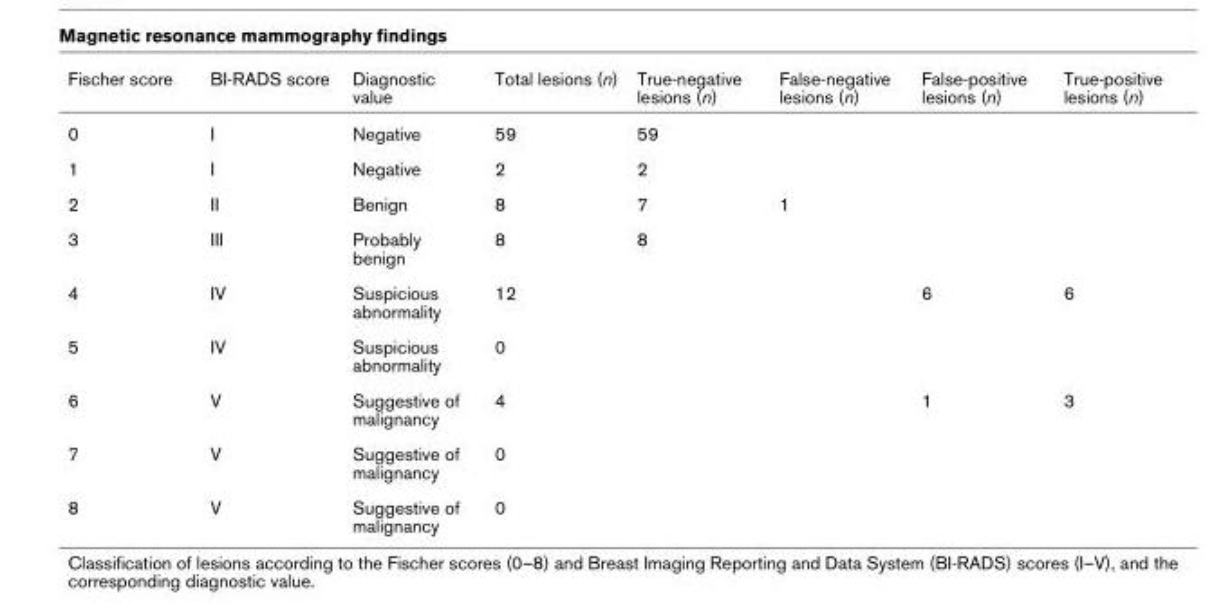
<table><thead><tr><td>Fischer score</td><td>BI-RADS score</td><td>Diagnostic value</td><td>Total lesions (n)</td><td>True-negative lesions (n)</td><td>False-negative lesions (n)</td><td>False-positive lesions (n)</td><td>True-positive lesions (n)</td></tr></thead><tbody><tr><td>0</td><td>I</td><td>Negative</td><td>59</td><td>59</td><td></td><td></td><td></td></tr><tr><td>1</td><td>I</td><td>Negative</td><td>2</td><td>2</td><td></td><td></td><td></td></tr><tr><td>2</td><td>II</td><td>Benign</td><td>8</td><td>7</td><td>1</td><td></td><td></td></tr><tr><td>3</td><td>III</td><td>Probably benign</td><td>8</td><td>8</td><td></td><td></td><td></td></tr><tr><td>4</td><td>IV</td><td>Suspicious abnormality</td><td>12</td><td></td><td></td><td>6</td><td>6</td></tr><tr><td>5</td><td>IV</td><td>Suspicious abnormality</td><td>0</td><td></td><td></td><td></td><td></td></tr><tr><td>6</td><td>V</td><td>Suggestive of malignancy</td><td>4</td><td></td><td></td><td>1</td><td>3</td></tr><tr><td>7</td><td>V</td><td>Suggestive of malignancy</td><td>0</td><td></td><td></td><td></td><td></td></tr><tr><td>8</td><td>V</td><td>Suggestive of malignancy</td><td>0</td><td></td><td></td><td></td><td></td></tr></tbody></table>